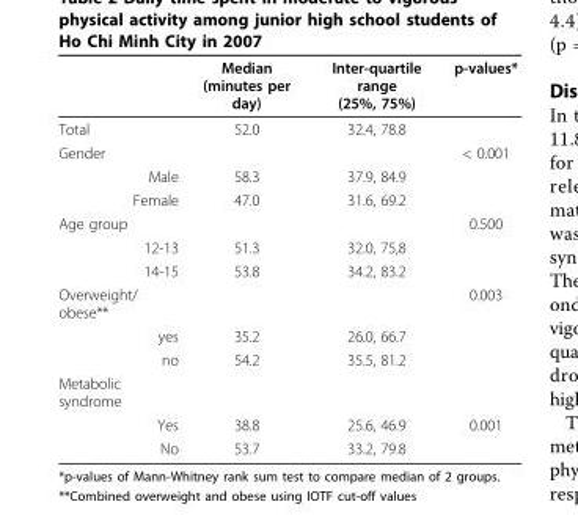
<table><thead><tr><td></td><td>Median (minutes per day)</td><td>Inter-quartile range (25%, 75%)</td><td>p-values*</td></tr></thead><tbody><tr><td>Total</td><td>52.0</td><td>32.4, 78.8</td><td></td></tr><tr><td>Gender</td><td></td><td></td><td>&lt; 0.001</td></tr><tr><td>Male</td><td>58.3</td><td>37.9, 84.9</td><td></td></tr><tr><td>Female</td><td>47.0</td><td>31.6, 69.2</td><td></td></tr><tr><td>Age group</td><td></td><td></td><td>0.500</td></tr><tr><td>12-13</td><td>51.3</td><td>32.0, 75,8</td><td></td></tr><tr><td>14-15</td><td>53.8</td><td>34.2, 83.2</td><td></td></tr><tr><td>Overweight/ obese**</td><td></td><td></td><td>0.003</td></tr><tr><td>yes</td><td>35.2</td><td>26.0, 66.7</td><td></td></tr><tr><td>no</td><td>54.2</td><td>35.5, 81.2</td><td></td></tr><tr><td colspan="4">Metabolic syndrome</td></tr><tr><td>Yes</td><td>38.8</td><td>25.6, 46.9</td><td>0.001</td></tr><tr><td>No</td><td>53.7</td><td>33.2, 79.8</td><td></td></tr></tbody></table>